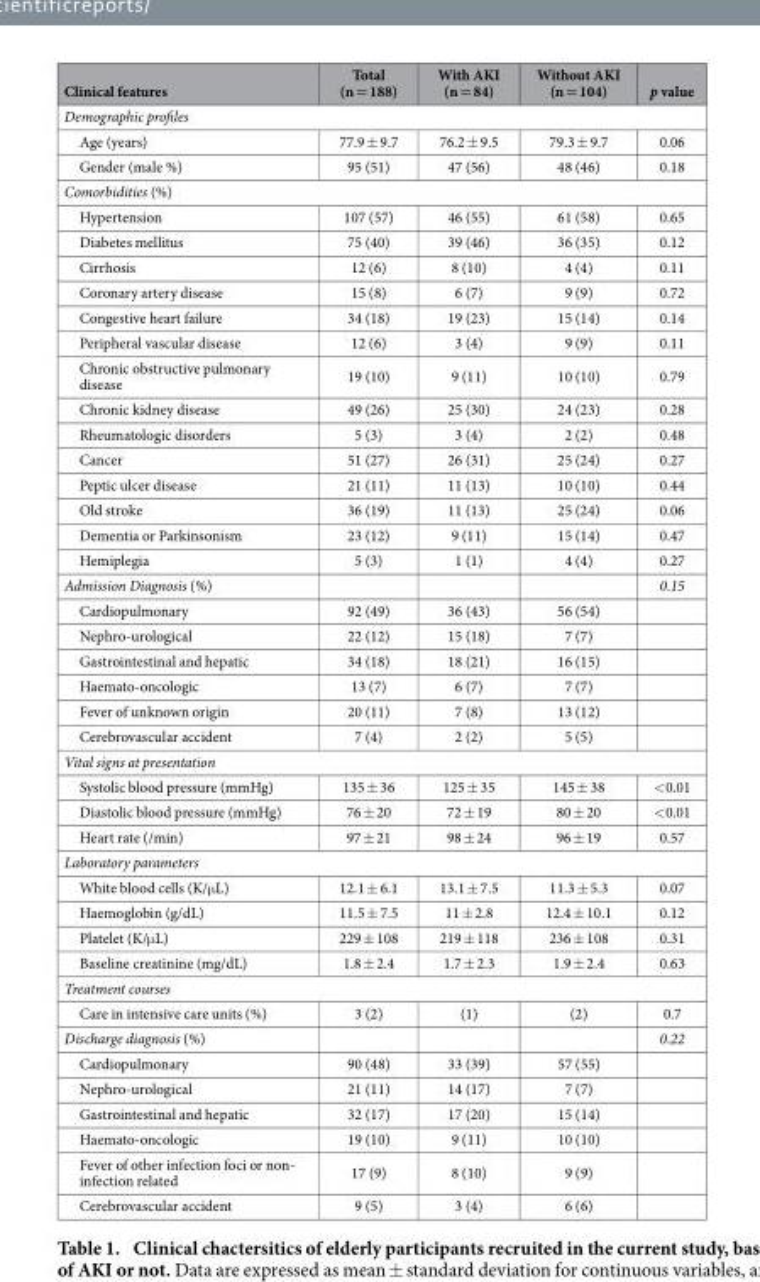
<table><thead><tr><td>Clinical features</td><td>Total (n = 188)</td><td>With AKI (n = 84)</td><td>Without AKI (n = 104)</td><td>p value</td></tr></thead><tbody><tr><td colspan="5">Demographic profiles</td></tr><tr><td>Age (years)</td><td>77.9 ± 9.7</td><td>76.2 ± 9.5</td><td>79.3 ± 9.7</td><td>0.06</td></tr><tr><td>Gender (male %)</td><td>95 (51)</td><td>47 (56)</td><td>48 (46)</td><td>0.18</td></tr><tr><td colspan="5">Comorbidities (%)</td></tr><tr><td>Hypertension</td><td>107 (57)</td><td>46 (55)</td><td>61 (58)</td><td>0.65</td></tr><tr><td>Diabetes mellitus</td><td>75 (40)</td><td>39 (46)</td><td>36 (35)</td><td>0.12</td></tr><tr><td>Cirrhosis</td><td>12 (6)</td><td>8 (10)</td><td>4 (4)</td><td>0.11</td></tr><tr><td>Coronary artery disease</td><td>15 (8)</td><td>6 (7)</td><td>9 (9)</td><td>0.72</td></tr><tr><td>Congestive heart failure</td><td>34 (18)</td><td>19 (23)</td><td>15 (14)</td><td>0.14</td></tr><tr><td>Peripheral vascular disease</td><td>12 (6)</td><td>3 (4)</td><td>9 (9)</td><td>0.11</td></tr><tr><td>Chronic obstructive pulmonary disease</td><td>19 (10)</td><td>9 (11)</td><td>10 (10)</td><td>0.79</td></tr><tr><td>Chronic kidney disease</td><td>49 (26)</td><td>25 (30)</td><td>24 (23)</td><td>0.28</td></tr><tr><td>Rheumatologic disorders</td><td>5 (3)</td><td>3 (4)</td><td>2 (2)</td><td>0.48</td></tr><tr><td>Cancer</td><td>51 (27)</td><td>26 (31)</td><td>25 (24)</td><td>0.27</td></tr><tr><td>Peptic ulcer disease</td><td>21 (11)</td><td>11 (13)</td><td>10 (10)</td><td>0.44</td></tr><tr><td>Old stroke</td><td>36 (19)</td><td>11 (13)</td><td>25 (24)</td><td>0.06</td></tr><tr><td>Dementia or Parkinsonism</td><td>23 (12)</td><td>9 (11)</td><td>15 (14)</td><td>0.47</td></tr><tr><td>Hemiplegia</td><td>5 (3)</td><td>1 (1)</td><td>4 (4)</td><td>0.27</td></tr><tr><td>Admission Diagnosis (%)</td><td></td><td></td><td></td><td>0.15</td></tr><tr><td>Cardiopulmonary</td><td>92 (49)</td><td>36 (43)</td><td>56 (54)</td><td></td></tr><tr><td>Nephro-urological</td><td>22 (12)</td><td>15 (18)</td><td>7 (7)</td><td></td></tr><tr><td>Gastrointestinal and hepatic</td><td>34 (18)</td><td>18 (21)</td><td>16 (15)</td><td></td></tr><tr><td>Haemato-oncologic</td><td>13 (7)</td><td>6 (7)</td><td>7 (7)</td><td></td></tr><tr><td>Fever of unknown origin</td><td>20 (11)</td><td>7 (8)</td><td>13 (12)</td><td></td></tr><tr><td>Cerebrovascular accident</td><td>7 (4)</td><td>2 (2)</td><td>5 (5)</td><td></td></tr><tr><td colspan="5">Vital signs at presentation</td></tr><tr><td>Systolic blood pressure (mmHg)</td><td>135 ± 36</td><td>125 ± 35</td><td>145 ± 38</td><td>&lt; 0.01</td></tr><tr><td>Diastolic blood pressure (mmHg)</td><td>76 ± 20</td><td>72 ± 19</td><td>80 ± 20</td><td>&lt; 0.01</td></tr><tr><td>Heart rate (/min)</td><td>97 ± 21</td><td>98 ± 24</td><td>96 ± 19</td><td>0.57</td></tr><tr><td colspan="5">Laboratory parameters</td></tr><tr><td>White blood cells (K/μ L)</td><td>12.1 ± 6.1</td><td>13.1 ± 7.5</td><td>11.3 ± 5.3</td><td>0.07</td></tr><tr><td>Haemoglobin (g/dL)</td><td>11.5 ± 7.5</td><td>11 ± 2.8</td><td>12.4 ± 10.1</td><td>0.12</td></tr><tr><td>Platelet (K/μ L)</td><td>229 ± 108</td><td>219 ± 118</td><td>236 ± 108</td><td>0.31</td></tr><tr><td>Baseline creatinine (mg/dL)</td><td>1.8 ± 2.4</td><td>1.7 ± 2.3</td><td>1.9 ± 2.4</td><td>0.63</td></tr><tr><td colspan="5">Treatment courses</td></tr><tr><td>Care in intensive care units (%)</td><td>3 (2)</td><td>(1)</td><td>(2)</td><td>0.7</td></tr><tr><td>Discharge diagnosis (%)</td><td></td><td></td><td></td><td>0.22</td></tr><tr><td>Cardiopulmonary</td><td>90 (48)</td><td>33 (39)</td><td>57 (55)</td><td></td></tr><tr><td>Nephro-urological</td><td>21 (11)</td><td>14 (17)</td><td>7 (7)</td><td></td></tr><tr><td>Gastrointestinal and hepatic</td><td>32 (17)</td><td>17 (20)</td><td>15 (14)</td><td></td></tr><tr><td>Haemato-oncologic</td><td>19 (10)</td><td>9 (11)</td><td>10 (10)</td><td></td></tr><tr><td>Fever of other infection foci or non- infection related</td><td>17 (9)</td><td>8 (10)</td><td>9 (9)</td><td></td></tr><tr><td>Cerebrovascular accident</td><td>9 (5)</td><td>3 (4)</td><td>6 (6)</td><td></td></tr></tbody></table>